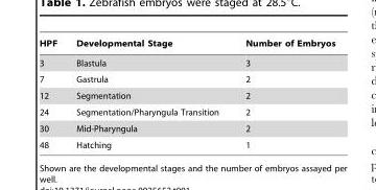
<table><thead><tr><td>HPF</td><td>Developmental Stage</td><td>Number of Embryos</td></tr></thead><tbody><tr><td>3</td><td>Blastula</td><td>3</td></tr><tr><td>7</td><td>Gastrula</td><td>2</td></tr><tr><td>12</td><td>Segmentation</td><td>2</td></tr><tr><td>24</td><td>Segmentation/Pharyngula Transition</td><td>2</td></tr><tr><td>30</td><td>Mid-Pharyngula</td><td>2</td></tr><tr><td>48</td><td>Hatching</td><td>1</td></tr></tbody></table>